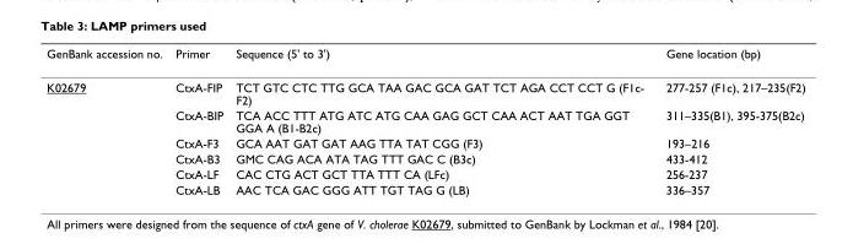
<table><thead><tr><td>GenBank accession no.</td><td>Primer</td><td>Sequence (5&#x27; to 3&#x27;)</td><td>Gene location (bp)</td></tr></thead><tbody><tr><td rowspan="6">K02679</td><td>CtxA-FIP</td><td>TCT GTC CTC TTG GCA TAA GAC GCA GAT TCT AGA CCT CCT G (F1c- F2)</td><td>277-257 (F1c), 217–235(F2)</td></tr><tr><td>CtxA-BIP</td><td>TCA ACC TTT ATG ATC ATG CAA GAG GCT CAA ACT AAT TGA GGT GGA A (B1-B2c)</td><td>311–335(B1), 395-375(B2c)</td></tr><tr><td>CtxA-F3</td><td>GCA AAT GAT GAT AAG TTA TAT CGG (F3)</td><td>193–216</td></tr><tr><td>CtxA-B3</td><td>GMC CAG ACA ATA TAG TTT GAC C (B3c)</td><td>433-412</td></tr><tr><td>CtxA-LF</td><td>CAC CTG ACT GCT TTA TTT CA (LFc)</td><td>256-237</td></tr><tr><td>CtxA-LB</td><td>AAC TCA GAC GGG ATT TGT TAG G (LB)</td><td>336–357</td></tr></tbody></table>